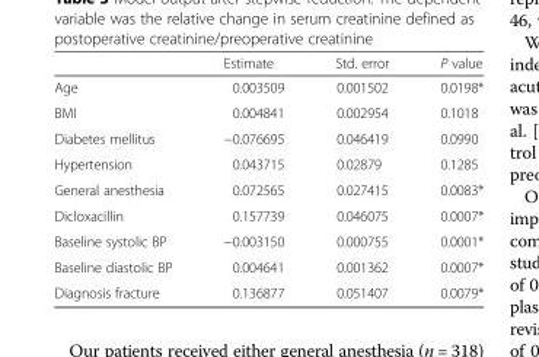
<table><thead><tr><td></td><td>Estimate</td><td>Std. error</td><td>P value</td></tr></thead><tbody><tr><td>Age</td><td>0.003509</td><td>0.001502</td><td>0.0198*</td></tr><tr><td>BMI</td><td>0.004841</td><td>0.002954</td><td>0.1018</td></tr><tr><td>Diabetes mellitus</td><td>−0.076695</td><td>0.046419</td><td>0.0990</td></tr><tr><td>Hypertension</td><td>0.043715</td><td>0.02879</td><td>0.1285</td></tr><tr><td>General anesthesia</td><td>0.072565</td><td>0.027415</td><td>0.0083*</td></tr><tr><td>Dicloxacillin</td><td>0.157739</td><td>0.046075</td><td>0.0007*</td></tr><tr><td>Baseline systolic BP</td><td>−0.003150</td><td>0.000755</td><td>0.0001*</td></tr><tr><td>Baseline diastolic BP</td><td>0.004641</td><td>0.001362</td><td>0.0007*</td></tr><tr><td>Diagnosis fracture</td><td>0.136877</td><td>0.051407</td><td>0.0079*</td></tr></tbody></table>